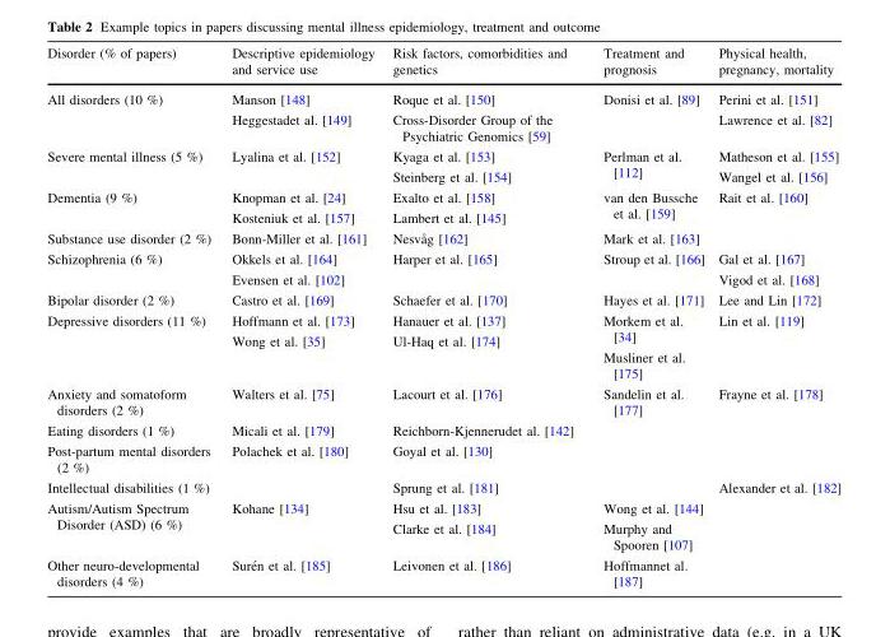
<table><thead><tr><td>Disorder (% of papers)</td><td>Descriptive epidemiology and service use</td><td>Risk factors, comorbidities and genetics</td><td>Treatment and prognosis</td><td>Physical health, pregnancy, mortality</td></tr></thead><tbody><tr><td>All disorders (10 %)</td><td>Manson [148] Heggestadet al. [149]</td><td>Roque et al. [150] Cross-Disorder Group of the Psychiatric Genomics [59]</td><td>Donisi et al. [89]</td><td>Perini et al. [151] Lawrence et al. [82]</td></tr><tr><td>Severe mental illness (5 %)</td><td>Lyalina et al. [152]</td><td>Kyaga et al. [153] Steinberg et al. [154]</td><td>Perlman et al. [112]</td><td>Matheson et al. [155] Wangel et al. [156]</td></tr><tr><td>Dementia (9 %)</td><td>Knopman et al. [24] Kosteniuk et al. [157]</td><td>Exalto et al. [158] Lambert et al. [145]</td><td>van den Bussche et al. [159]</td><td>Rait et al. [160]</td></tr><tr><td>Substance use disorder (2 %)</td><td>Bonn-Miller et al. [161]</td><td>Nesva˚g [162]</td><td>Mark et al. [163]</td><td></td></tr><tr><td>Schizophrenia (6 %)</td><td>Okkels et al. [164] Evensen et al. [102]</td><td>Harper et al. [165]</td><td>Stroup et al. [166]</td><td>Gal et al. [167] Vigod et al. [168]</td></tr><tr><td>Bipolar disorder (2 %)</td><td>Castro et al. [169]</td><td>Schaefer et al. [170]</td><td>Hayes et al. [171]</td><td>Lee and Lin [172]</td></tr><tr><td>Depressive disorders (11 %)</td><td>Hoffmann et al. [173] Wong et al. [35]</td><td>Hanauer et al. [137] Ul-Haq et al. [174]</td><td>Morkem et al. [34] Musliner et al. [175]</td><td>Lin et al. [119]</td></tr><tr><td>Anxiety and somatoform disorders (2 %)</td><td>Walters et al. [75]</td><td>Lacourt et al. [176]</td><td>Sandelin et al. [177]</td><td>Frayne et al. [178]</td></tr><tr><td>Eating disorders (1 %)</td><td>Micali et al. [179]</td><td>Reichborn-Kjennerudet al. [142]</td><td></td><td></td></tr><tr><td>Post-partum mental disorders (2 %)</td><td>Polachek et al. [180]</td><td>Goyal et al. [130]</td><td></td><td></td></tr><tr><td>Intellectual disabilities (1 %)</td><td></td><td>Sprung et al. [181]</td><td></td><td>Alexander et al. [182]</td></tr><tr><td>Autism/Autism Spectrum Disorder (ASD) (6 %)</td><td>Kohane [134]</td><td>Hsu et al. [183] Clarke et al. [184]</td><td>Wong et al. [144] Murphy and Spooren [107]</td><td></td></tr><tr><td>Other neuro-developmental disorders (4 %)</td><td>Sure´n et al. [185]</td><td>Leivonen et al. [186]</td><td>Hoffmannet al. [187]</td><td></td></tr></tbody></table>